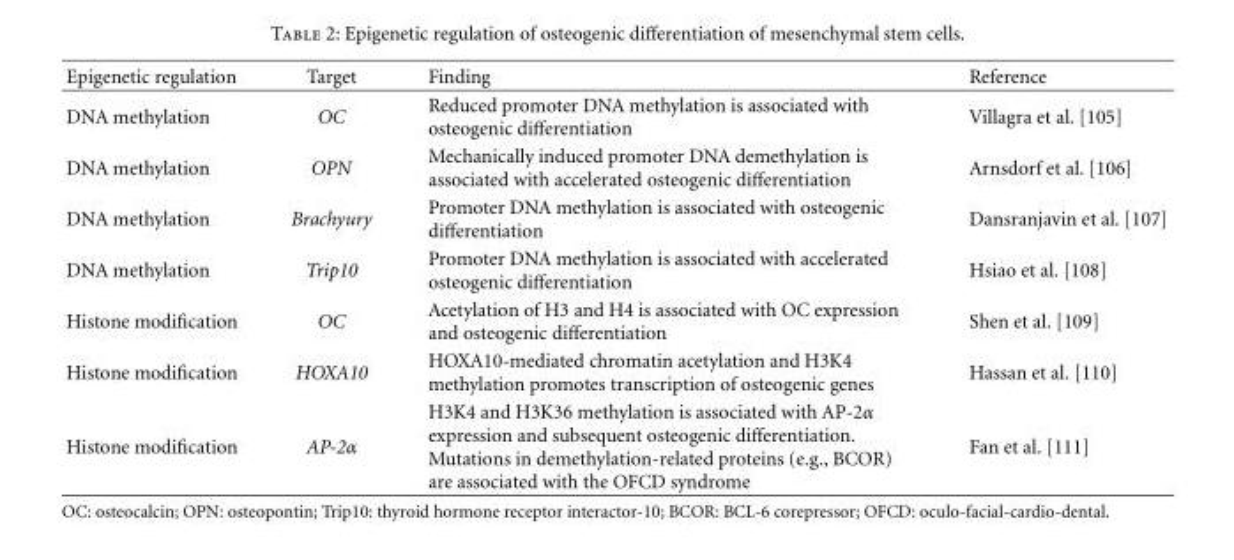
<table><thead><tr><td>Epigenetic regulation</td><td>Target</td><td>Finding</td><td>Reference</td></tr></thead><tbody><tr><td>DNA methylation</td><td>OC</td><td>Reduced promoter DNA methylation is associated with osteogenic differentiation</td><td>Villagra et al. [105]</td></tr><tr><td>DNA methylation</td><td>OPN</td><td>Mechanically induced promoter DNA demethylation is associated with accelerated osteogenic differentiation</td><td>Arnsdorf et al. [106]</td></tr><tr><td>DNA methylation</td><td>Brachyury</td><td>Promoter DNA methylation is associated with osteogenic differentiation</td><td>Dansranjavin et al. [107]</td></tr><tr><td>DNA methylation</td><td>Trip10</td><td>Promoter DNA methylation is associated with accelerated osteogenic differentiation</td><td>Hsiao et al. [108]</td></tr><tr><td>Histone modification</td><td>OC</td><td>Acetylation of H3 and H4 is associated with OC expression and osteogenic differentiation</td><td>Shen et al. [109]</td></tr><tr><td>Histone modification</td><td>HOXA10</td><td>HOXA10-mediated chromatin acetylation and H3K4 methylation promotes transcription of osteogenic genes</td><td>Hassan et al. [110]</td></tr><tr><td>Histone modification</td><td>AP-2α</td><td>H3K4 and H3K36 methylation is associated with AP-2α expression and subsequent osteogenic differentiation. Mutations in demethylation-related proteins (e.g., BCOR) are associated with the OFCD syndrome</td><td>Fan et al. [111]</td></tr></tbody></table>